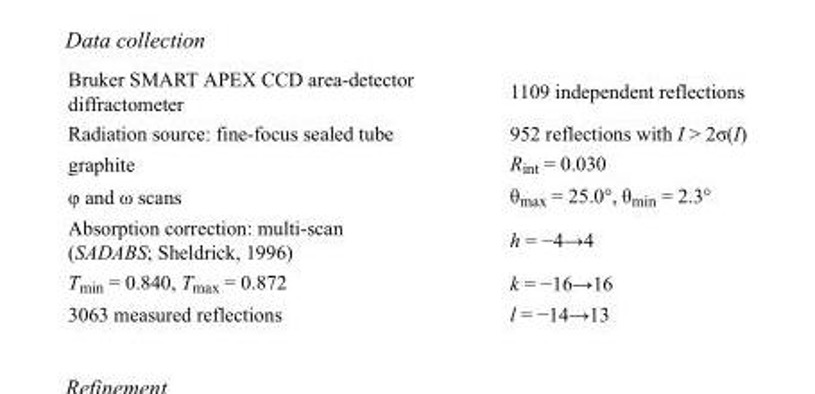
<table><tbody><tr><td>Bruker SMART APEX CCD area-detector diffractometer</td><td>1109 independent reflections</td></tr><tr><td>Radiation source: fine-focus sealed tube</td><td>952 reflections with I &gt; 2σ(I)</td></tr><tr><td>graphite</td><td>R<sub>int</sub> = 0.030</td></tr><tr><td>φ and ω scans</td><td>θ<sub>max</sub> = 25.0°, θ<sub>min</sub> = 2.3°</td></tr><tr><td>Absorption correction: multi-scan (SADABS; Sheldrick, 1996)</td><td>h = −4→4</td></tr><tr><td>T<sub>min</sub> = 0.840, T<sub>max</sub> = 0.872</td><td>k = −16→16</td></tr><tr><td>3063 measured reflections</td><td>l = −14→13</td></tr></tbody></table>